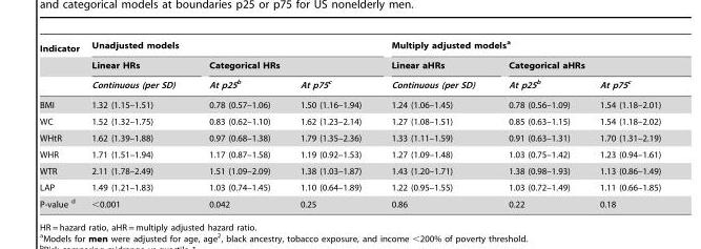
<table><thead><tr><td rowspan="3">Indicator</td><td colspan="3">Unadjusted models</td><td colspan="3">Multiply adjusted models<sup>a</sup></td></tr><tr><td rowspan="2">Linear HRs Continuous (per SD)</td><td colspan="2">Categorical HRs</td><td rowspan="2">Linear aHRs Continuous (per SD)</td><td colspan="2">Categorical aHRs</td></tr><tr><td>At p25b</td><td>At p75c</td><td>At p25b</td><td>At p75c</td></tr></thead><tbody><tr><td>BMI</td><td>1.32 (1.15–1.51)</td><td>0.78 (0.57–1.06)</td><td>1.50 (1.16–1.94)</td><td>1.24 (1.06–1.45)</td><td>0.78 (0.56–1.09)</td><td>1.54 (1.18–2.01)</td></tr><tr><td>WC</td><td>1.52 (1.32–1.75)</td><td>0.83 (0.62–1.10)</td><td>1.62 (1.23–2.14)</td><td>1.27 (1.08–1.51)</td><td>0.85 (0.63–1.15)</td><td>1.54 (1.18–2.02)</td></tr><tr><td>WHtR</td><td>1.62 (1.39–1.88)</td><td>0.97 (0.68–1.38)</td><td>1.79 (1.35–2.36)</td><td>1.33 (1.11–1.59)</td><td>0.91 (0.63–1.31)</td><td>1.70 (1.31–2.19)</td></tr><tr><td>WHR</td><td>1.71 (1.51–1.94)</td><td>1.17 (0.87–1.58)</td><td>1.19 (0.92–1.53)</td><td>1.27 (1.09–1.48)</td><td>1.03 (0.75–1.42)</td><td>1.23 (0.94–1.61)</td></tr><tr><td>WTR</td><td>2.11 (1.78–2.49)</td><td>1.51 (1.09–2.09)</td><td>1.38 (1.03–1.87)</td><td>1.43 (1.20–1.71)</td><td>1.38 (0.98–1.93)</td><td>1.13 (0.86–1.49)</td></tr><tr><td>LAP</td><td>1.49 (1.21–1.83)</td><td>1.03 (0.74–1.45)</td><td>1.10 (0.64–1.89)</td><td>1.22 (0.95–1.55)</td><td>1.03 (0.72–1.49)</td><td>1.11 (0.66–1.85)</td></tr><tr><td>P-value d</td><td>&lt;0.001</td><td>0.042</td><td>0.25</td><td>0.86</td><td>0.22</td><td>0.18</td></tr></tbody></table>